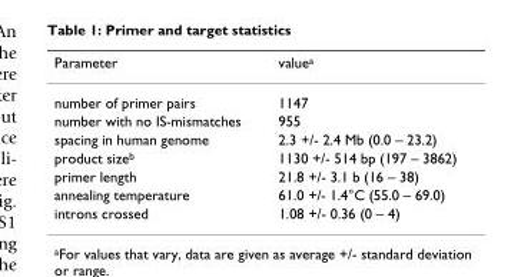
<table><thead><tr><td>Parameter</td><td>valuea</td></tr></thead><tbody><tr><td>number of primer pairs</td><td>1147</td></tr><tr><td>number with no IS-mismatches</td><td>955</td></tr><tr><td>spacing in human genome</td><td>2.3 +/- 2.4 Mb (0.0 – 23.2)</td></tr><tr><td>product sizeb</td><td>1130 +/- 514 bp (197 – 3862)</td></tr><tr><td>primer length</td><td>21.8 +/- 3.1 b (16 – 38)</td></tr><tr><td>annealing temperature</td><td>61.0 +/- 1.4°C (55.0 – 69.0)</td></tr><tr><td>introns crossed</td><td>1.08 +/- 0.36 (0 – 4)</td></tr></tbody></table>